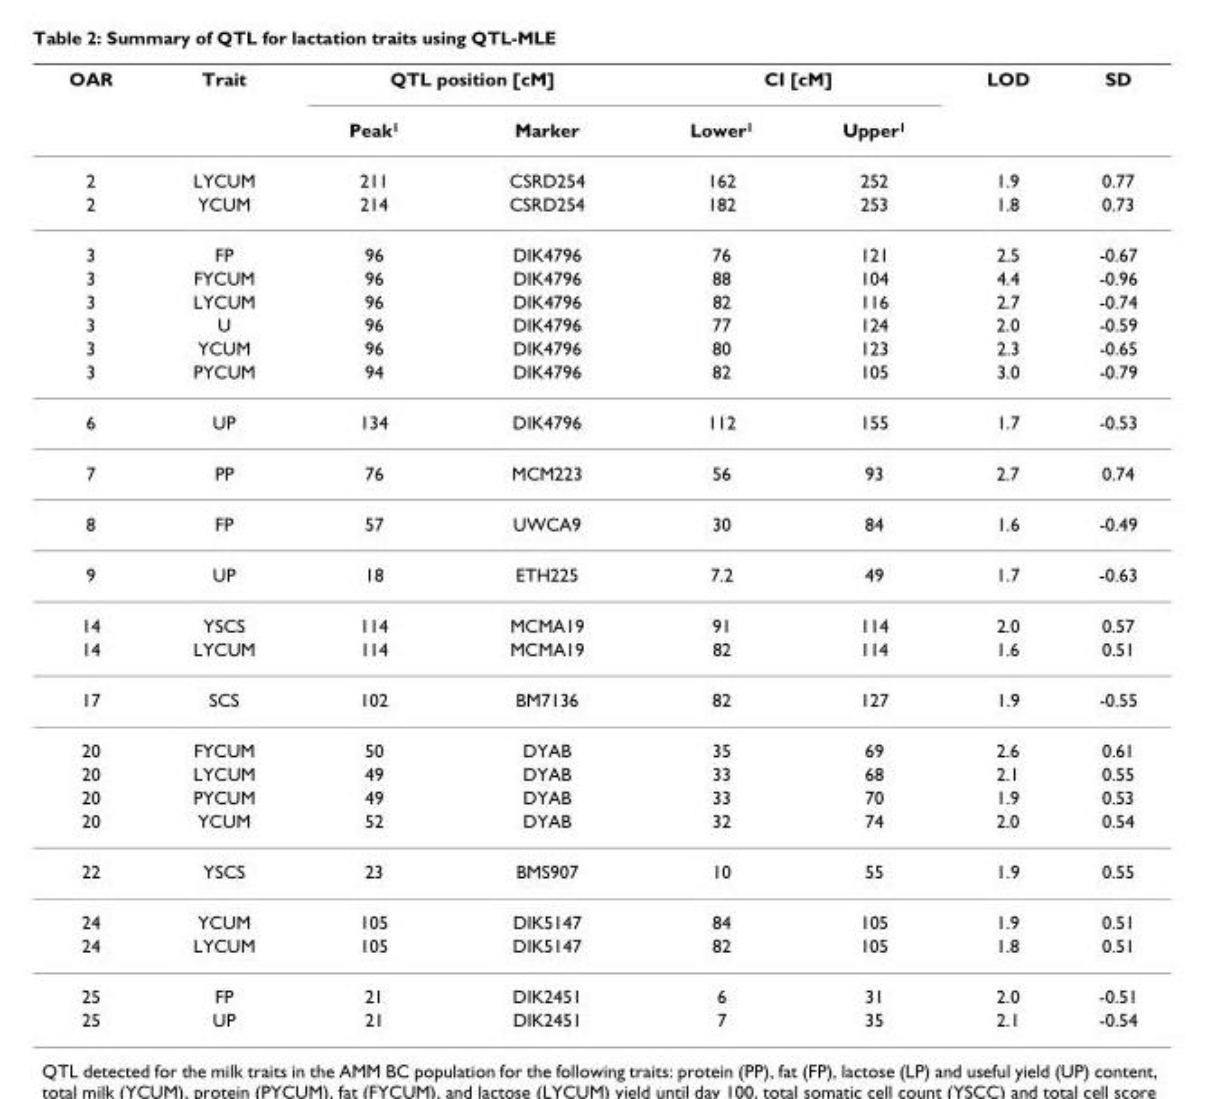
<table><thead><tr><td rowspan="2">OAR</td><td rowspan="2">Trait</td><td colspan="2">QTL position [cM]</td><td colspan="2">CI [cM]</td><td rowspan="2">LOD</td><td rowspan="2">SD</td></tr><tr><td>Peak<sup>1</sup></td><td>Marker</td><td>Lower<sup>1</sup></td><td>Upper<sup>1</sup></td></tr></thead><tbody><tr><td>2</td><td>LYCUM</td><td>211</td><td>CSRD254</td><td>162</td><td>252</td><td>1.9</td><td>0.77</td></tr><tr><td>2</td><td>YCUM</td><td>214</td><td>CSRD254</td><td>182</td><td>253</td><td>1.8</td><td>0.73</td></tr><tr><td>3</td><td>FP</td><td>96</td><td>DIK4796</td><td>76</td><td>121</td><td>2.5</td><td>-0.67</td></tr><tr><td>3</td><td>FYCUM</td><td>96</td><td>DIK4796</td><td>88</td><td>104</td><td>4.4</td><td>-0.96</td></tr><tr><td>3</td><td>LYCUM</td><td>96</td><td>DIK4796</td><td>82</td><td>116</td><td>2.7</td><td>-0.74</td></tr><tr><td>3</td><td>U</td><td>96</td><td>DIK4796</td><td>77</td><td>124</td><td>2.0</td><td>-0.59</td></tr><tr><td>3</td><td>YCUM</td><td>96</td><td>DIK4796</td><td>80</td><td>123</td><td>2.3</td><td>-0.65</td></tr><tr><td>3</td><td>PYCUM</td><td>94</td><td>DIK4796</td><td>82</td><td>105</td><td>3.0</td><td>-0.79</td></tr><tr><td>6</td><td>UP</td><td>134</td><td>DIK4796</td><td>112</td><td>155</td><td>1.7</td><td>-0.53</td></tr><tr><td>7</td><td>PP</td><td>76</td><td>MCM223</td><td>56</td><td>93</td><td>2.7</td><td>0.74</td></tr><tr><td>8</td><td>FP</td><td>57</td><td>UWCA9</td><td>30</td><td>84</td><td>1.6</td><td>-0.49</td></tr><tr><td>9</td><td>UP</td><td>18</td><td>ETH225</td><td>7.2</td><td>49</td><td>1.7</td><td>-0.63</td></tr><tr><td>14</td><td>YSCS</td><td>114</td><td>MCMA19</td><td>91</td><td>114</td><td>2.0</td><td>0.57</td></tr><tr><td>14</td><td>LYCUM</td><td>114</td><td>MCMA19</td><td>82</td><td>114</td><td>1.6</td><td>0.51</td></tr><tr><td>17</td><td>SCS</td><td>102</td><td>BM7136</td><td>82</td><td>127</td><td>1.9</td><td>-0.55</td></tr><tr><td>20</td><td>FYCUM</td><td>50</td><td>DYAB</td><td>35</td><td>69</td><td>2.6</td><td>0.61</td></tr><tr><td>20</td><td>LYCUM</td><td>49</td><td>DYAB</td><td>33</td><td>68</td><td>2.1</td><td>0.55</td></tr><tr><td>20</td><td>PYCUM</td><td>49</td><td>DYAB</td><td>33</td><td>70</td><td>1.9</td><td>0.53</td></tr><tr><td>20</td><td>YCUM</td><td>52</td><td>DYAB</td><td>32</td><td>74</td><td>2.0</td><td>0.54</td></tr><tr><td>22</td><td>YSCS</td><td>23</td><td>BMS907</td><td>10</td><td>55</td><td>1.9</td><td>0.55</td></tr><tr><td>24</td><td>YCUM</td><td>105</td><td>DIK5147</td><td>84</td><td>105</td><td>1.9</td><td>0.51</td></tr><tr><td>24</td><td>LYCUM</td><td>105</td><td>DIK5147</td><td>82</td><td>105</td><td>1.8</td><td>0.51</td></tr><tr><td>25</td><td>FP</td><td>21</td><td>DIK2451</td><td>6</td><td>31</td><td>2.0</td><td>-0.51</td></tr><tr><td>25</td><td>UP</td><td>21</td><td>DIK2451</td><td>7</td><td>35</td><td>2.1</td><td>-0.54</td></tr></tbody></table>